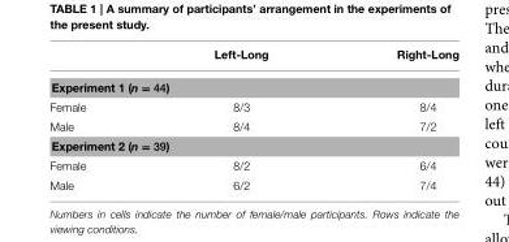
<table><thead><tr><td></td><td>Left-Long</td><td>Right-Long</td></tr></thead><tbody><tr><td colspan="3">Experiment 1 (n = 44)</td></tr><tr><td>Female</td><td>8/3</td><td>8/4</td></tr><tr><td>Male</td><td>8/4</td><td>7/2</td></tr><tr><td colspan="3">Experiment 2 (n = 39)</td></tr><tr><td>Female</td><td>8/2</td><td>6/4</td></tr><tr><td>Male</td><td>6/2</td><td>7/4</td></tr></tbody></table>